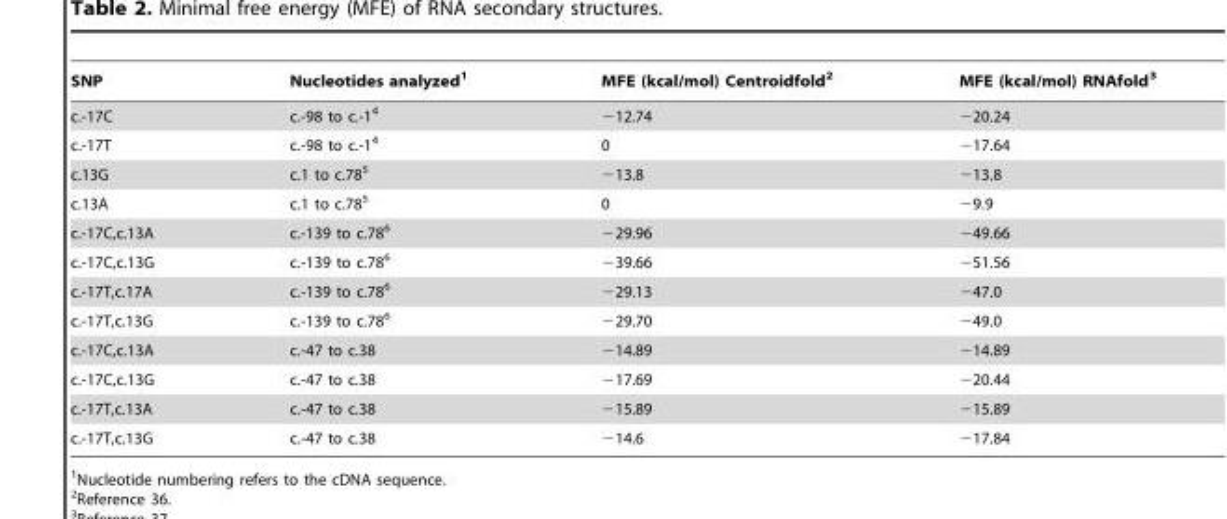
<table><thead><tr><td>SNP</td><td>Nucleotides analyzed<sup>1</sup></td><td>MFE (kcal/mol) Centroidfold<sup>2</sup></td><td>MFE (kcal/mol) RNAfold<sup>3</sup></td></tr></thead><tbody><tr><td>c.-17C</td><td>c.-98 to c.-1<sup>4</sup></td><td>−12.74</td><td>−20.24</td></tr><tr><td>c.-17T</td><td>c.-98 to c.-1<sup>4</sup></td><td>0</td><td>−17.64</td></tr><tr><td>c.13G</td><td>c.1 to c.78<sup>5</sup></td><td>−13.8</td><td>−13.8</td></tr><tr><td>c.13A</td><td>c.1 to c.78<sup>5</sup></td><td>0</td><td>−9.9</td></tr><tr><td>c.-17C,c.13A</td><td>c.-139 to c.78<sup>6</sup></td><td>−29.96</td><td>−49.66</td></tr><tr><td>c.-17C,c.13G</td><td>c.-139 to c.78<sup>6</sup></td><td>−39.66</td><td>−51.56</td></tr><tr><td>c.-17T,c.17A</td><td>c.-139 to c.78<sup>6</sup></td><td>−29.13</td><td>−47.0</td></tr><tr><td>c.-17T,c.13G</td><td>c.-139 to c.78<sup>6</sup></td><td>−29.70</td><td>−49.0</td></tr><tr><td>c.-17C,c.13A</td><td>c.-47 to c.38</td><td>−14.89</td><td>−14.89</td></tr><tr><td>c.-17C,c.13G</td><td>c.-47 to c.38</td><td>−17.69</td><td>−20.44</td></tr><tr><td>c.-17T,c.13A</td><td>c.-47 to c.38</td><td>−15.89</td><td>−15.89</td></tr><tr><td>c.-17T,c.13G</td><td>c.-47 to c.38</td><td>−14.6</td><td>−17.84</td></tr></tbody></table>